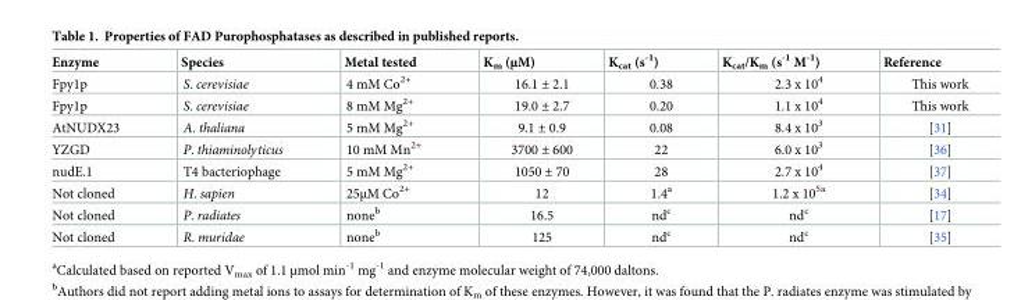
<table><thead><tr><td>Enzyme</td><td>Species</td><td>Metal tested</td><td>K<sub>m</sub> (μM)</td><td>K<sub>cat</sub> (s<sup>-1</sup>)</td><td>K<sub>cat</sub>/K<sub>m</sub> (s<sup>-1</sup> M<sup>-1</sup>)</td><td>Reference</td></tr></thead><tbody><tr><td>Fpy1p</td><td>S. cerevisiae</td><td>4 mM Co<sup>2+</sup></td><td>16.1 ± 2.1</td><td>0.38</td><td>2.3 x 10<sup>4</sup></td><td>This work</td></tr><tr><td>Fpy1p</td><td>S. cerevisiae</td><td>8 mM Mg<sup>2+</sup></td><td>19.0 ± 2.7</td><td>0.20</td><td>1.1 x 10<sup>4</sup></td><td>This work</td></tr><tr><td>AtNUDX23</td><td>A. thaliana</td><td>5 mM Mg<sup>2+</sup></td><td>9.1 ± 0.9</td><td>0.08</td><td>8.4 x 10<sup>3</sup></td><td>[31]</td></tr><tr><td>YZGD</td><td>P. thiaminolyticus</td><td>10 mM Mn<sup>2+</sup></td><td>3700 ± 600</td><td>22</td><td>6.0 x 10<sup>3</sup></td><td>[36]</td></tr><tr><td>nudE.1</td><td>T4 bacteriophage</td><td>5 mM Mg<sup>2+</sup></td><td>1050 ± 70</td><td>28</td><td>2.7 x 10<sup>4</sup></td><td>[37]</td></tr><tr><td>Not cloned</td><td>H. sapien</td><td>25μM Co<sup>2+</sup></td><td>12</td><td>1.4<sup>a</sup></td><td>1.2 x 10<sup>5a</sup></td><td>[34]</td></tr><tr><td>Not cloned</td><td>P. radiates</td><td>none<sup>b</sup></td><td>16.5</td><td>nd<sup>c</sup></td><td>nd<sup>c</sup></td><td>[17]</td></tr><tr><td>Not cloned</td><td>R. muridae</td><td>none<sup>b</sup></td><td>125</td><td>nd<sup>c</sup></td><td>nd<sup>c</sup></td><td>[35]</td></tr></tbody></table>